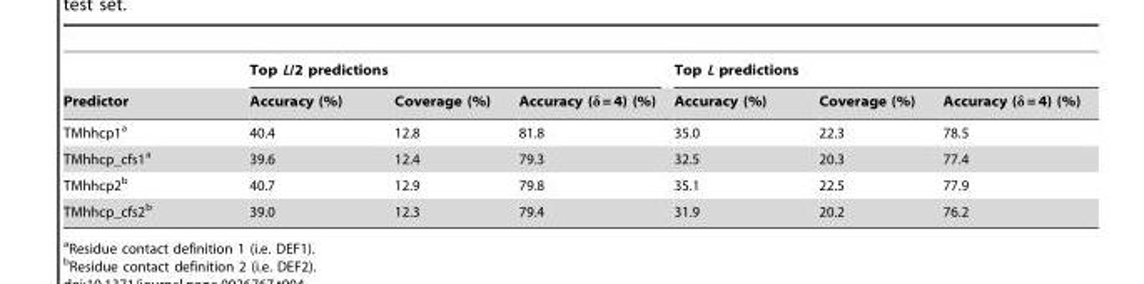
<table><thead><tr><td rowspan="2">Predictor</td><td colspan="3">Top L/2 predictions</td><td colspan="3">Top L predictions</td></tr><tr><td>Accuracy (%)</td><td>Coverage (%)</td><td>Accuracy (δ = 4) (%)</td><td>Accuracy (%)</td><td>Coverage (%)</td><td>Accuracy (δ = 4) (%)</td></tr></thead><tbody><tr><td>TMhhcp1<sup>a</sup></td><td>40.4</td><td>12.8</td><td>81.8</td><td>35.0</td><td>22.3</td><td>78.5</td></tr><tr><td>TMhhcp_cfs1<sup>a</sup></td><td>39.6</td><td>12.4</td><td>79.3</td><td>32.5</td><td>20.3</td><td>77.4</td></tr><tr><td>TMhhcp2<sup>b</sup></td><td>40.7</td><td>12.9</td><td>79.8</td><td>35.1</td><td>22.5</td><td>77.9</td></tr><tr><td>TMhhcp_cfs2<sup>b</sup></td><td>39.0</td><td>12.3</td><td>79.4</td><td>31.9</td><td>20.2</td><td>76.2</td></tr></tbody></table>